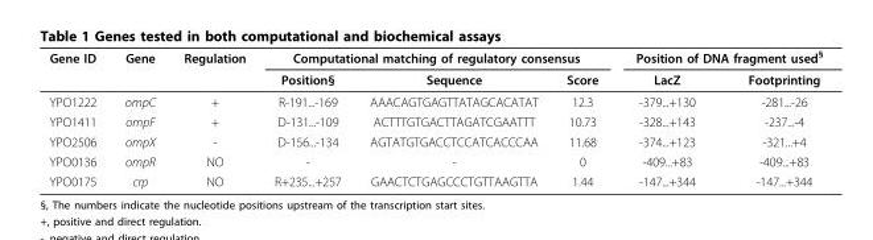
<table><thead><tr><td rowspan="2">Gene ID</td><td rowspan="2">Gene</td><td rowspan="2">Regulation</td><td colspan="3">Computational matching of regulatory consensus</td><td colspan="2">Position of DNA fragment used<sup>§</sup></td></tr><tr><td>Position§</td><td>Sequence</td><td>Score</td><td>LacZ</td><td>Footprinting</td></tr></thead><tbody><tr><td>YPO1222</td><td>ompC</td><td>+</td><td>R-191...-169</td><td>AAACAGTGAGTTATAGCACATAT</td><td>12.3</td><td>-379...+130</td><td>-281...-26</td></tr><tr><td>YPO1411</td><td>ompF</td><td>+</td><td>D-131...-109</td><td>ACTTTGTGACTTAGATCGAATTT</td><td>10.73</td><td>-328...+143</td><td>-237...-4</td></tr><tr><td>YPO2506</td><td>ompX</td><td>-</td><td>D-156...-134</td><td>AGTATGTGACCTCCATCACCCAA</td><td>11.68</td><td>-374...+123</td><td>-321...+4</td></tr><tr><td>YPO0136</td><td>ompR</td><td>NO</td><td>-</td><td>-</td><td>0</td><td>-409...+83</td><td>-409...+83</td></tr><tr><td>YPO0175</td><td>crp</td><td>NO</td><td>R+235...+257</td><td>GAACTCTGAGCCCTGTTAAGTTA</td><td>1.44</td><td>-147...+344</td><td>-147...+344</td></tr></tbody></table>